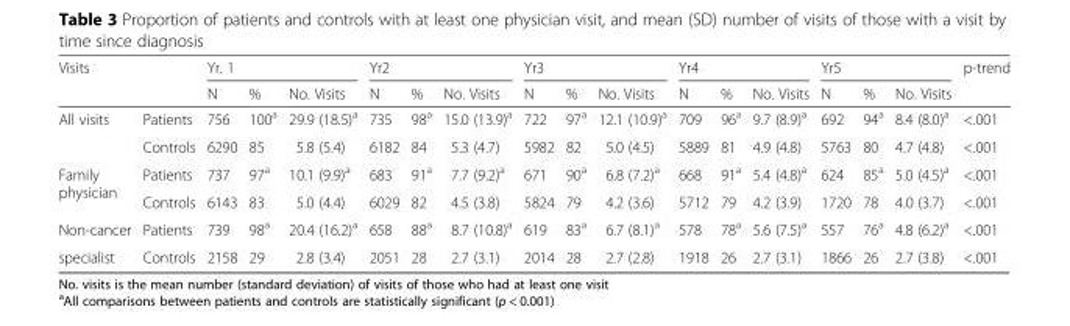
<table><thead><tr><td rowspan="2">Visits</td><td rowspan="2"></td><td colspan="3">Yr. 1</td><td colspan="3">Yr2</td><td colspan="3">Yr3</td><td colspan="3">Yr4</td><td colspan="3">Yr5</td><td rowspan="2">p-trend</td></tr><tr><td>N</td><td>%</td><td>No. Visits</td><td>N</td><td>%</td><td>No. Visits</td><td>N</td><td>%</td><td>No. Visits</td><td>N</td><td>%</td><td>No. Visits</td><td>N</td><td>%</td><td>No. Visits</td></tr></thead><tbody><tr><td rowspan="2">All visits</td><td>Patients</td><td>756</td><td>100<sup>a</sup></td><td>29.9 (18.5)<sup>a</sup></td><td>735</td><td>98<sup>a</sup></td><td>15.0 (13.9)<sup>a</sup></td><td>722</td><td>97<sup>a</sup></td><td>12.1 (10.9)<sup>a</sup></td><td>709</td><td>96<sup>a</sup></td><td>9.7 (8.9)<sup>a</sup></td><td>692</td><td>94<sup>a</sup></td><td>8.4 (8.0)<sup>a</sup></td><td>&lt;.001</td></tr><tr><td>Controls</td><td>6290</td><td>85</td><td>5.8 (5.4)</td><td>6182</td><td>84</td><td>5.3 (4.7)</td><td>5982</td><td>82</td><td>5.0 (4.5)</td><td>5889</td><td>81</td><td>4.9 (4.8)</td><td>5763</td><td>80</td><td>4.7 (4.8)</td><td>&lt;.001</td></tr><tr><td rowspan="2">Family physician</td><td>Patients</td><td>737</td><td>97<sup>a</sup></td><td>10.1 (9.9)<sup>a</sup></td><td>683</td><td>91<sup>a</sup></td><td>7.7 (9.2)<sup>a</sup></td><td>671</td><td>90<sup>a</sup></td><td>6.8 (7.2)<sup>a</sup></td><td>668</td><td>91<sup>a</sup></td><td>5.4 (4.8)<sup>a</sup></td><td>624</td><td>85<sup>a</sup></td><td>5.0 (4.5)<sup>a</sup></td><td>&lt;.001</td></tr><tr><td>Controls</td><td>6143</td><td>83</td><td>5.0 (4.4)</td><td>6029</td><td>82</td><td>4.5 (3.8)</td><td>5824</td><td>79</td><td>4.2 (3.6)</td><td>5712</td><td>79</td><td>4.2 (3.9)</td><td>1720</td><td>78</td><td>4.0 (3.7)</td><td>&lt;.001</td></tr><tr><td>Non-cancer</td><td>Patients</td><td>739</td><td>98<sup>a</sup></td><td>20.4 (16.2)<sup>a</sup></td><td>658</td><td>88<sup>a</sup></td><td>8.7 (10.8)<sup>a</sup></td><td>619</td><td>83<sup>a</sup></td><td>6.7 (8.1)<sup>a</sup></td><td>578</td><td>78<sup>a</sup></td><td>5.6 (7.5)<sup>a</sup></td><td>557</td><td>76<sup>a</sup></td><td>4.8 (6.2)<sup>a</sup></td><td>&lt;.001</td></tr><tr><td>specialist</td><td>Controls</td><td>2158</td><td>29</td><td>2.8 (3.4)</td><td>2051</td><td>28</td><td>2.7 (3.1)</td><td>2014</td><td>28</td><td>2.7 (2.8)</td><td>1918</td><td>26</td><td>2.7 (3.1)</td><td>1866</td><td>26</td><td>2.7 (3.8)</td><td>&lt;.001</td></tr></tbody></table>